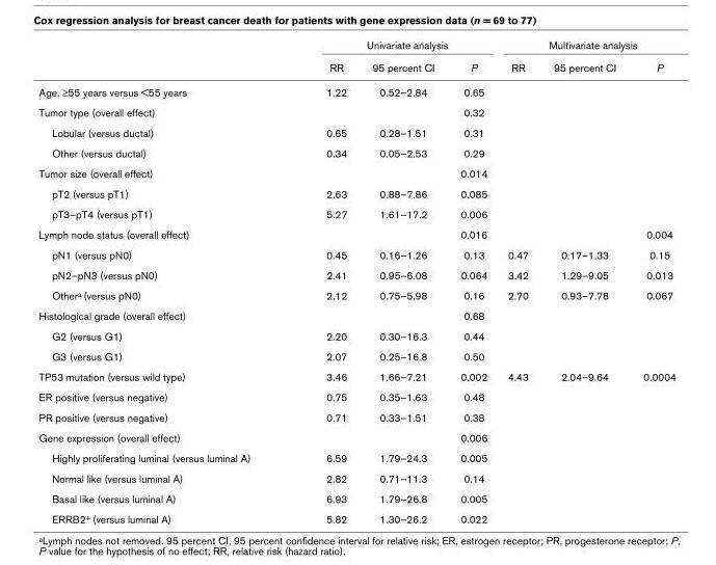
<table><thead><tr><td rowspan="2"></td><td colspan="3">Univariate analysis</td><td colspan="3">Multivariate analysis</td></tr><tr><td>RR</td><td>95 percent CI</td><td>P</td><td>RR</td><td>95 percent CI</td><td>P</td></tr></thead><tbody><tr><td>Age, ≥55 years versus &lt;55 years</td><td>1.22</td><td>0.52–2.84</td><td>0.65</td><td></td><td></td><td></td></tr><tr><td>Tumor type (overall effect)</td><td></td><td></td><td>0.32</td><td></td><td></td><td></td></tr><tr><td>Lobular (versus ductal)</td><td>0.65</td><td>0.28–1.51</td><td>0.31</td><td></td><td></td><td></td></tr><tr><td>Other (versus ductal)</td><td>0.34</td><td>0.05–2.53</td><td>0.29</td><td></td><td></td><td></td></tr><tr><td>Tumor size (overall effect)</td><td></td><td></td><td>0.014</td><td></td><td></td><td></td></tr><tr><td>pT2 (versus pT1)</td><td>2.63</td><td>0.88–7.86</td><td>0.085</td><td></td><td></td><td></td></tr><tr><td>pT3–pT4 (versus pT1)</td><td>5.27</td><td>1.61–17.2</td><td>0.006</td><td></td><td></td><td></td></tr><tr><td>Lymph node status (overall effect)</td><td></td><td></td><td>0.016</td><td></td><td></td><td>0.004</td></tr><tr><td>pN1 (versus pN0)</td><td>0.45</td><td>0.16–1.26</td><td>0.13</td><td>0.47</td><td>0.17–1.33</td><td>0.15</td></tr><tr><td>pN2–pN3 (versus pN0)</td><td>2.41</td><td>0.95–6.08</td><td>0.064</td><td>3.42</td><td>1.29–9.05</td><td>0.013</td></tr><tr><td>Other<sup>a</sup> (versus pN0)</td><td>2.12</td><td>0.75–5.98</td><td>0.16</td><td>2.70</td><td>0.93–7.78</td><td>0.067</td></tr><tr><td>Histological grade (overall effect)</td><td></td><td></td><td>0.68</td><td></td><td></td><td></td></tr><tr><td>G2 (versus G1)</td><td>2.20</td><td>0.30–16.3</td><td>0.44</td><td></td><td></td><td></td></tr><tr><td>G3 (versus G1)</td><td>2.07</td><td>0.25–16.8</td><td>0.50</td><td></td><td></td><td></td></tr><tr><td>TP53 mutation (versus wild type)</td><td>3.46</td><td>1.66–7.21</td><td>0.002</td><td>4.43</td><td>2.04–9.64</td><td>0.0004</td></tr><tr><td>ER positive (versus negative)</td><td>0.75</td><td>0.35–1.63</td><td>0.48</td><td></td><td></td><td></td></tr><tr><td>PR positive (versus negative)</td><td>0.71</td><td>0.33–1.51</td><td>0.38</td><td></td><td></td><td></td></tr><tr><td>Gene expression (overall effect)</td><td></td><td></td><td>0.006</td><td></td><td></td><td></td></tr><tr><td>Highly proliferating luminal (versus luminal A)</td><td>6.59</td><td>1.79–24.3</td><td>0.005</td><td></td><td></td><td></td></tr><tr><td>Normal like (versus luminal A)</td><td>2.82</td><td>0.71–11.3</td><td>0.14</td><td></td><td></td><td></td></tr><tr><td>Basal like (versus luminal A)</td><td>6.93</td><td>1.79–26.8</td><td>0.005</td><td></td><td></td><td></td></tr><tr><td>ERRB2<sup>+</sup> (versus luminal A)</td><td>5.82</td><td>1.30–26.2</td><td>0.022</td><td></td><td></td><td></td></tr></tbody></table>